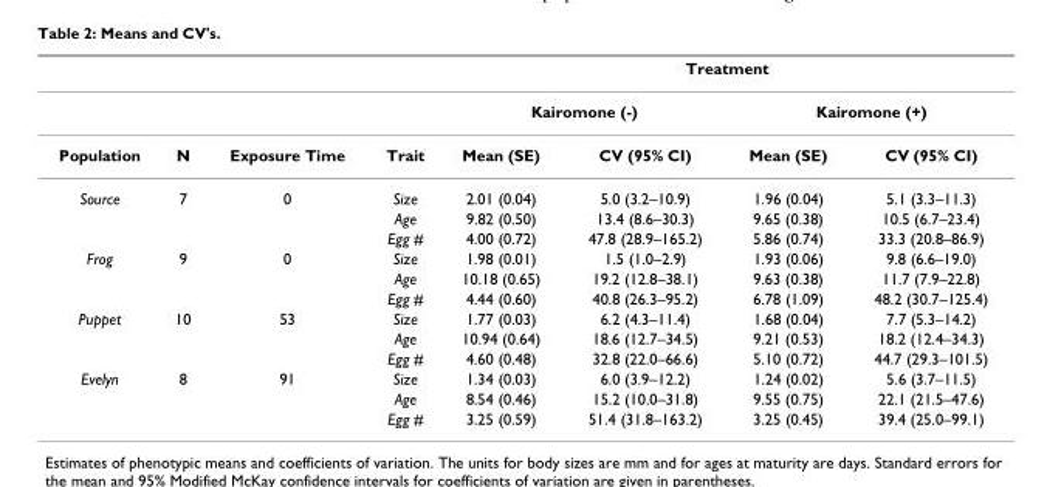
<table><thead><tr><td rowspan="3">Population</td><td rowspan="3">N</td><td rowspan="3">Exposure Time</td><td rowspan="3">Trait</td><td colspan="4">Treatment</td></tr><tr><td colspan="2">Kairomone (-)</td><td colspan="2">Kairomone (+)</td></tr><tr><td>Mean (SE)</td><td>CV (95% CI)</td><td>Mean (SE)</td><td>CV (95% CI)</td></tr></thead><tbody><tr><td rowspan="3">Source</td><td>7</td><td>0</td><td>Size</td><td>2.01 (0.04)</td><td>5.0 (3.2–10.9)</td><td>1.96 (0.04)</td><td>5.1 (3.3–11.3)</td></tr><tr><td></td><td></td><td>Age</td><td>9.82 (0.50)</td><td>13.4 (8.6–30.3)</td><td>9.65 (0.38)</td><td>10.5 (6.7–23.4)</td></tr><tr><td></td><td></td><td>Egg #</td><td>4.00 (0.72)</td><td>47.8 (28.9–165.2)</td><td>5.86 (0.74)</td><td>33.3 (20.8–86.9)</td></tr><tr><td rowspan="3">Frog</td><td>9</td><td>0</td><td>Size</td><td>1.98 (0.01)</td><td>1.5 (1.0–2.9)</td><td>1.93 (0.06)</td><td>9.8 (6.6–19.0)</td></tr><tr><td></td><td></td><td>Age</td><td>10.18 (0.65)</td><td>19.2 (12.8–38.1)</td><td>9.63 (0.38)</td><td>11.7 (7.9–22.8)</td></tr><tr><td></td><td></td><td>Egg #</td><td>4.44 (0.60)</td><td>40.8 (26.3–95.2)</td><td>6.78 (1.09)</td><td>48.2 (30.7–125.4)</td></tr><tr><td rowspan="3">Puppet</td><td>10</td><td>53</td><td>Size</td><td>1.77 (0.03)</td><td>6.2 (4.3–11.4)</td><td>1.68 (0.04)</td><td>7.7 (5.3–14.2)</td></tr><tr><td></td><td></td><td>Age</td><td>10.94 (0.64)</td><td>18.6 (12.7–34.5)</td><td>9.21 (0.53)</td><td>18.2 (12.4–34.3)</td></tr><tr><td></td><td></td><td>Egg #</td><td>4.60 (0.48)</td><td>32.8 (22.0–66.6)</td><td>5.10 (0.72)</td><td>44.7 (29.3–101.5)</td></tr><tr><td rowspan="3">Evelyn</td><td>8</td><td>91</td><td>Size</td><td>1.34 (0.03)</td><td>6.0 (3.9–12.2)</td><td>1.24 (0.02)</td><td>5.6 (3.7–11.5)</td></tr><tr><td></td><td></td><td>Age</td><td>8.54 (0.46)</td><td>15.2 (10.0–31.8)</td><td>9.55 (0.75)</td><td>22.1 (21.5–47.6)</td></tr><tr><td></td><td></td><td>Egg #</td><td>3.25 (0.59)</td><td>51.4 (31.8–163.2)</td><td>3.25 (0.45)</td><td>39.4 (25.0–99.1)</td></tr></tbody></table>